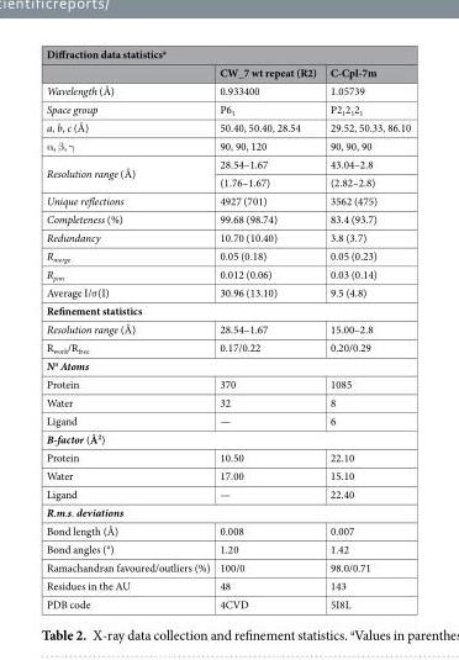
<table><thead><tr><td colspan="3">Diffraction data statistics<sup>a</sup></td></tr><tr><td></td><td>CW_7 wt repeat (R2)</td><td>C-Cpl-7m</td></tr></thead><tbody><tr><td>Wavelength (Å)</td><td>0.933400</td><td>1.05739</td></tr><tr><td>Space group</td><td>P6<sub>1</sub></td><td>P2<sub>1</sub>2<sub>1</sub>2<sub>1</sub></td></tr><tr><td>a, b, c (Å)</td><td>50.40, 50.40, 28.54</td><td>29.52, 50.33, 86.10</td></tr><tr><td>α, β, γ</td><td>90, 90, 120</td><td>90, 90, 90</td></tr><tr><td rowspan="2">Resolution range (Å)</td><td>28.54–1.67</td><td>43.04–2.8</td></tr><tr><td>(1.76–1.67)</td><td>(2.82–2.8)</td></tr><tr><td>Unique reflections</td><td>4927 (701)</td><td>3562 (475)</td></tr><tr><td>Completeness (%)</td><td>99.68 (98.74)</td><td>83.4 (93.7)</td></tr><tr><td>Redundancy</td><td>10.70 (10.40)</td><td>3.8 (3.7)</td></tr><tr><td>R<sub>merge</sub></td><td>0.05 (0.18)</td><td>0.05 (0.23)</td></tr><tr><td>R<sub>pim</sub></td><td>0.012 (0.06)</td><td>0.03 (0.14)</td></tr><tr><td>Average I/σ(I)</td><td>30.96 (13.10)</td><td>9.5 (4.8)</td></tr><tr><td colspan="3">Refinement statistics</td></tr><tr><td>Resolution range (Å)</td><td>28.54–1.67</td><td>15.00–2.8</td></tr><tr><td>R<sub>work</sub>/R<sub>free</sub></td><td>0.17/0.22</td><td>0.20/0.29</td></tr><tr><td colspan="3">N<sup>o</sup> Atoms</td></tr><tr><td>Protein</td><td>370</td><td>1085</td></tr><tr><td>Water</td><td>32</td><td>8</td></tr><tr><td>Ligand</td><td>—</td><td>6</td></tr><tr><td colspan="3">B-factor (Å<sup>2</sup>)</td></tr><tr><td>Protein</td><td>10.50</td><td>22.10</td></tr><tr><td>Water</td><td>17.00</td><td>15.10</td></tr><tr><td>Ligand</td><td>—</td><td>22.40</td></tr><tr><td colspan="3">R.m.s. deviations</td></tr><tr><td>Bond length (Å)</td><td>0.008</td><td>0.007</td></tr><tr><td>Bond angles (°)</td><td>1.20</td><td>1.42</td></tr><tr><td>Ramachandran favoured/outliers (%)</td><td>100/0</td><td>98.0/0.71</td></tr><tr><td>Residues in the AU</td><td>48</td><td>143</td></tr><tr><td>PDB code</td><td>4CVD</td><td>5I8L</td></tr></tbody></table>